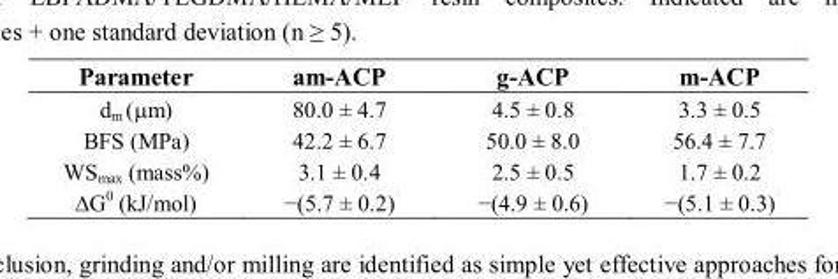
<table><thead><tr><td>Parameter</td><td>am-ACP</td><td>g-ACP</td><td>m-ACP</td></tr></thead><tbody><tr><td>d<sub>m</sub> (μm)</td><td>80.0 ± 4.7</td><td>4.5 ± 0.8</td><td>3.3 ± 0.5</td></tr><tr><td>BFS (MPa)</td><td>42.2 ± 6.7</td><td>50.0 ± 8.0</td><td>56.4 ± 7.7</td></tr><tr><td>WS<sub>max</sub> (mass%)</td><td>3.1 ± 0.4</td><td>2.5 ± 0.5</td><td>1.7 ± 0.2</td></tr><tr><td>ΔG<sup>0</sup> (kJ/mol)</td><td>−(5.7 ± 0.2)</td><td>−(4.9 ± 0.6)</td><td>−(5.1 ± 0.3)</td></tr></tbody></table>